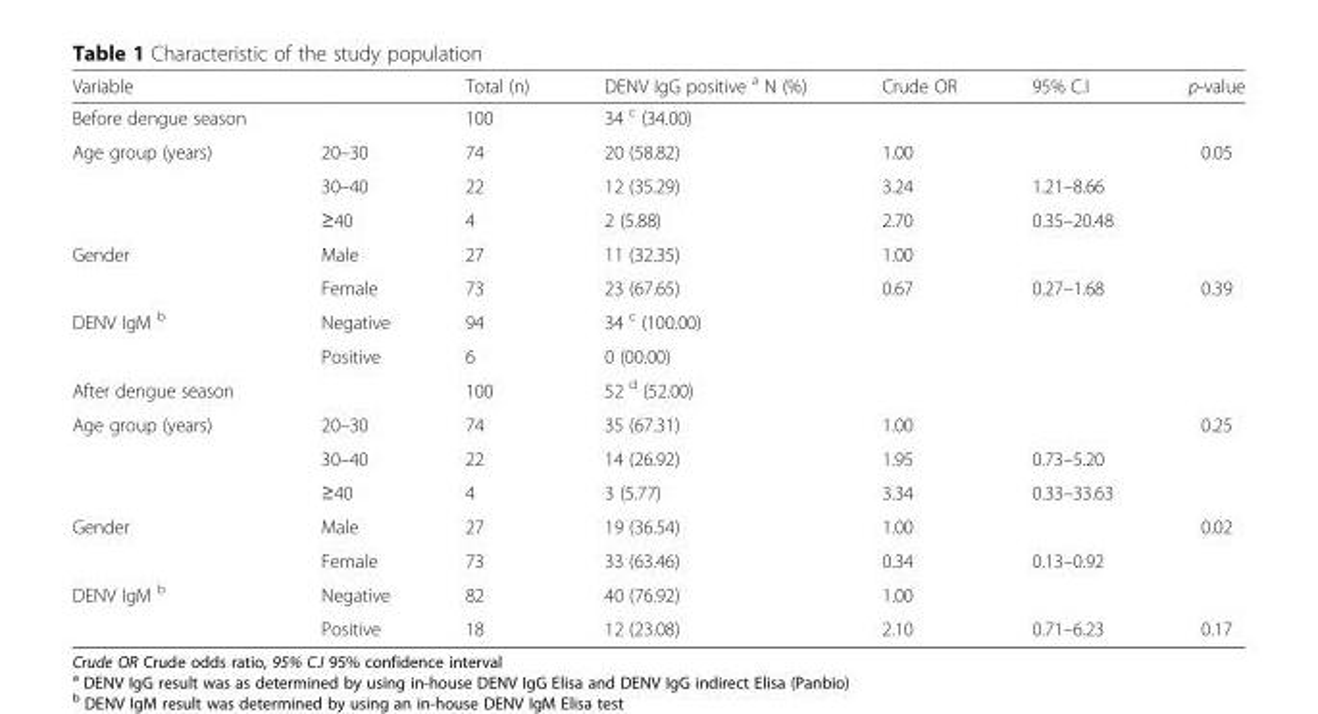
<table><thead><tr><td>Variable</td><td></td><td>Total (n)</td><td>DENV IgG positive <sup>a</sup> N (%)</td><td>Crude OR</td><td>95% C.I</td><td>p-value</td></tr></thead><tbody><tr><td>Before dengue season</td><td></td><td>100</td><td>34 <sup>c</sup> (34.00)</td><td></td><td></td><td></td></tr><tr><td rowspan="3">Age group (years)</td><td>20–30</td><td>74</td><td>20 (58.82)</td><td>1.00</td><td></td><td>0.05</td></tr><tr><td>30–40</td><td>22</td><td>12 (35.29)</td><td>3.24</td><td>1.21–8.66</td><td></td></tr><tr><td>≥40</td><td>4</td><td>2 (5.88)</td><td>2.70</td><td>0.35–20.48</td><td></td></tr><tr><td rowspan="2">Gender</td><td>Male</td><td>27</td><td>11 (32.35)</td><td>1.00</td><td></td><td></td></tr><tr><td>Female</td><td>73</td><td>23 (67.65)</td><td>0.67</td><td>0.27–1.68</td><td>0.39</td></tr><tr><td rowspan="2">DENV IgM <sup>b</sup></td><td>Negative</td><td>94</td><td>34 <sup>c</sup> (100.00)</td><td></td><td></td><td></td></tr><tr><td>Positive</td><td>6</td><td>0 (00.00)</td><td></td><td></td><td></td></tr><tr><td>After dengue season</td><td></td><td>100</td><td>52 <sup>d</sup> (52.00)</td><td></td><td></td><td></td></tr><tr><td rowspan="3">Age group (years)</td><td>20–30</td><td>74</td><td>35 (67.31)</td><td>1.00</td><td></td><td>0.25</td></tr><tr><td>30–40</td><td>22</td><td>14 (26.92)</td><td>1.95</td><td>0.73–5.20</td><td></td></tr><tr><td>≥40</td><td>4</td><td>3 (5.77)</td><td>3.34</td><td>0.33–33.63</td><td></td></tr><tr><td rowspan="2">Gender</td><td>Male</td><td>27</td><td>19 (36.54)</td><td>1.00</td><td></td><td>0.02</td></tr><tr><td>Female</td><td>73</td><td>33 (63.46)</td><td>0.34</td><td>0.13–0.92</td><td></td></tr><tr><td rowspan="2">DENV IgM <sup>b</sup></td><td>Negative</td><td>82</td><td>40 (76.92)</td><td>1.00</td><td></td><td></td></tr><tr><td>Positive</td><td>18</td><td>12 (23.08)</td><td>2.10</td><td>0.71–6.23</td><td>0.17</td></tr></tbody></table>